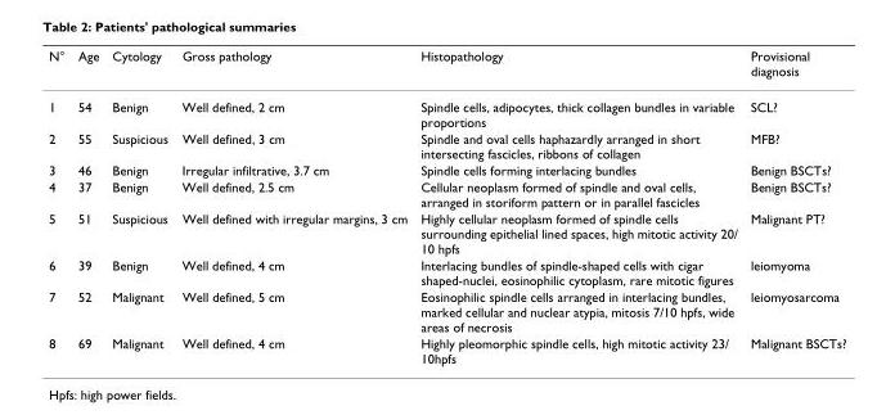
<table><thead><tr><td>N°</td><td>Age</td><td>Cytology</td><td>Gross pathology</td><td>Histopathology</td><td>Provisional diagnosis</td></tr></thead><tbody><tr><td>1</td><td>54</td><td>Benign</td><td>Well defined, 2 cm</td><td>Spindle cells, adipocytes, thick collagen bundles in variable proportions</td><td>SCL?</td></tr><tr><td>2</td><td>55</td><td>Suspicious</td><td>Well defined, 3 cm</td><td>Spindle and oval cells haphazardly arranged in short intersecting fascicles, ribbons of collagen</td><td>MFB?</td></tr><tr><td>3</td><td>46</td><td>Benign</td><td>Irregular infiltrative, 3.7 cm</td><td>Spindle cells forming interlacing bundles</td><td>Benign BSCTs?</td></tr><tr><td>4</td><td>37</td><td>Benign</td><td>Well defined, 2.5 cm</td><td>Cellular neoplasm formed of spindle and oval cells, arranged in storiform pattern or in parallel fascicles</td><td>Benign BSCTs?</td></tr><tr><td>5</td><td>51</td><td>Suspicious</td><td>Well defined with irregular margins, 3 cm</td><td>Highly cellular neoplasm formed of spindle cells surrounding epithelial lined spaces, high mitotic activity 20/ 10 hpfs</td><td>Malignant PT?</td></tr><tr><td>6</td><td>39</td><td>Benign</td><td>Well defined, 4 cm</td><td>Interlacing bundles of spindle-shaped cells with cigar shaped-nuclei, eosinophilic cytoplasm, rare mitotic figures</td><td>leiomyoma</td></tr><tr><td>7</td><td>52</td><td>Malignant</td><td>Well defined, 5 cm</td><td>Eosinophilic spindle cells arranged in interlacing bundles, marked cellular and nuclear atypia, mitosis 7/10 hpfs, wide areas of necrosis</td><td>leiomyosarcoma</td></tr><tr><td>8</td><td>69</td><td>Malignant</td><td>Well defined, 4 cm</td><td>Highly pleomorphic spindle cells, high mitotic activity 23/ 10hpfs</td><td>Malignant BSCTs?</td></tr></tbody></table>